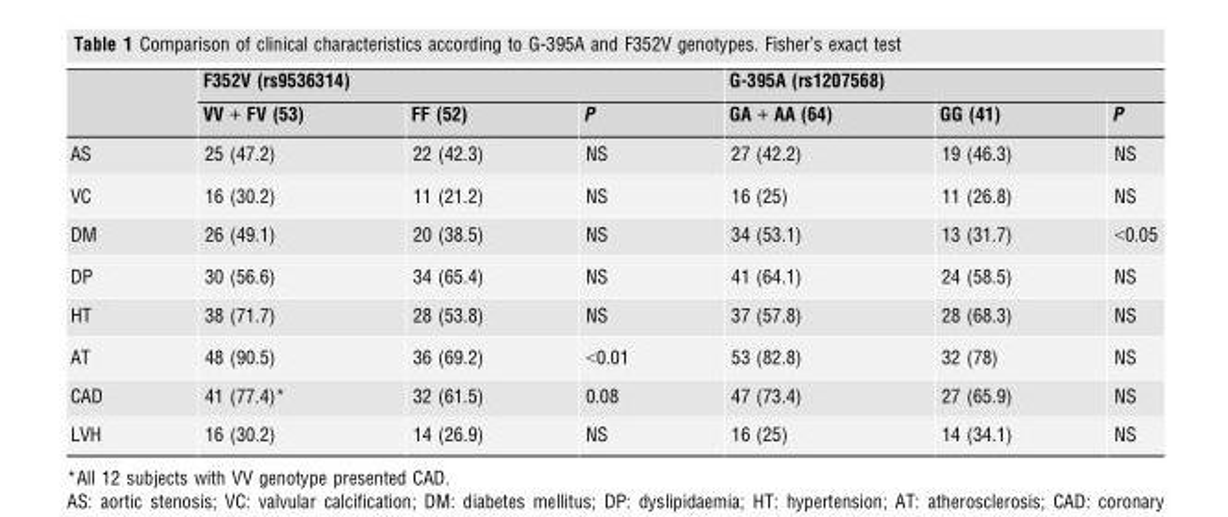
<table><thead><tr><td rowspan="2"></td><td colspan="3">F352V (rs9536314)</td><td colspan="3">G-395A (rs1207568)</td></tr><tr><td>VV + FV (53)</td><td>FF (52)</td><td>P</td><td>GA + AA (64)</td><td>GG (41)</td><td>P</td></tr></thead><tbody><tr><td>AS</td><td>25 (47.2)</td><td>22 (42.3)</td><td>NS</td><td>27 (42.2)</td><td>19 (46.3)</td><td>NS</td></tr><tr><td>VC</td><td>16 (30.2)</td><td>11 (21.2)</td><td>NS</td><td>16 (25)</td><td>11 (26.8)</td><td>NS</td></tr><tr><td>DM</td><td>26 (49.1)</td><td>20 (38.5)</td><td>NS</td><td>34 (53.1)</td><td>13 (31.7)</td><td>&lt;0.05</td></tr><tr><td>DP</td><td>30 (56.6)</td><td>34 (65.4)</td><td>NS</td><td>41 (64.1)</td><td>24 (58.5)</td><td>NS</td></tr><tr><td>HT</td><td>38 (71.7)</td><td>28 (53.8)</td><td>NS</td><td>37 (57.8)</td><td>28 (68.3)</td><td>NS</td></tr><tr><td>AT</td><td>48 (90.5)</td><td>36 (69.2)</td><td>&lt;0.01</td><td>53 (82.8)</td><td>32 (78)</td><td>NS</td></tr><tr><td>CAD</td><td>41 (77.4)*</td><td>32 (61.5)</td><td>0.08</td><td>47 (73.4)</td><td>27 (65.9)</td><td>NS</td></tr><tr><td>LVH</td><td>16 (30.2)</td><td>14 (26.9)</td><td>NS</td><td>16 (25)</td><td>14 (34.1)</td><td>NS</td></tr></tbody></table>